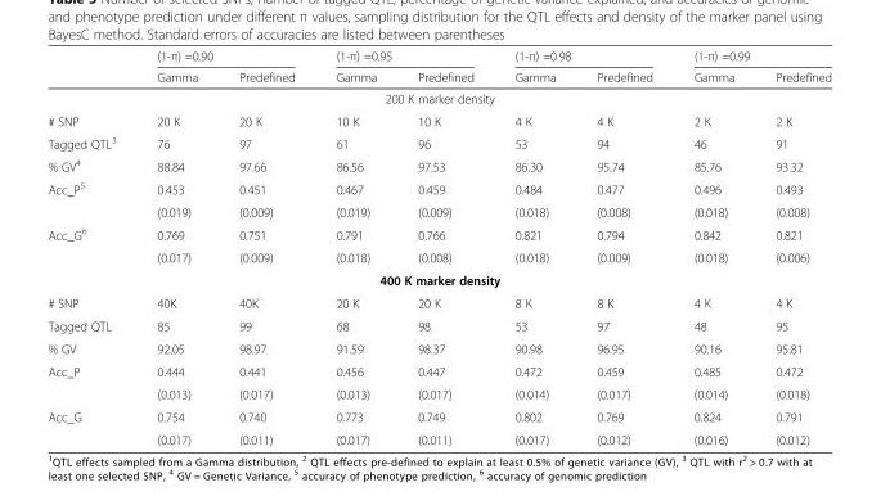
<table><thead><tr><td rowspan="2"></td><td colspan="2">(1-π) =0.90</td><td colspan="2">(1-π) =0.95</td><td colspan="2">(1-π) =0.98</td><td colspan="2">(1-π) =0.99</td></tr><tr><td>Gamma</td><td>Predefined</td><td>Gamma</td><td>Predefined</td><td>Gamma</td><td>Predefined</td><td>Gamma</td><td>Predefined</td></tr></thead><tbody><tr><td colspan="9">200 K marker density</td></tr><tr><td># SNP</td><td>20 K</td><td>20 K</td><td>10 K</td><td>10 K</td><td>4 K</td><td>4 K</td><td>2 K</td><td>2 K</td></tr><tr><td>Tagged QTL<sup>3</sup></td><td>76</td><td>97</td><td>61</td><td>96</td><td>53</td><td>94</td><td>46</td><td>91</td></tr><tr><td>% GV<sup>4</sup></td><td>88.84</td><td>97.66</td><td>86.56</td><td>97.53</td><td>86.30</td><td>95.74</td><td>85.76</td><td>93.32</td></tr><tr><td rowspan="2">Acc_P<sup>5</sup></td><td>0.453</td><td>0.451</td><td>0.467</td><td>0.459</td><td>0.484</td><td>0.477</td><td>0.496</td><td>0.493</td></tr><tr><td>(0.019)</td><td>(0.009)</td><td>(0.019)</td><td>(0.009)</td><td>(0.018)</td><td>(0.008)</td><td>(0.018)</td><td>(0.008)</td></tr><tr><td rowspan="2">Acc_G<sup>6</sup></td><td>0.769</td><td>0.751</td><td>0.791</td><td>0.766</td><td>0.821</td><td>0.794</td><td>0.842</td><td>0.821</td></tr><tr><td>(0.017)</td><td>(0.009)</td><td>(0.018)</td><td>(0.008)</td><td>(0.018)</td><td>(0.009)</td><td>(0.018)</td><td>(0.006)</td></tr><tr><td colspan="9">400 K marker density</td></tr><tr><td># SNP</td><td>40K</td><td>40K</td><td>20 K</td><td>20 K</td><td>8 K</td><td>8 K</td><td>4 K</td><td>4 K</td></tr><tr><td>Tagged QTL</td><td>85</td><td>99</td><td>68</td><td>98</td><td>53</td><td>97</td><td>48</td><td>95</td></tr><tr><td>% GV</td><td>92.05</td><td>98.97</td><td>91.59</td><td>98.37</td><td>90.98</td><td>96.95</td><td>90.16</td><td>95.81</td></tr><tr><td rowspan="2">Acc_P</td><td>0.444</td><td>0.441</td><td>0.456</td><td>0.447</td><td>0.472</td><td>0.459</td><td>0.485</td><td>0.472</td></tr><tr><td>(0.013)</td><td>(0.017)</td><td>(0.013)</td><td>(0.017)</td><td>(0.014)</td><td>(0.017)</td><td>(0.014)</td><td>(0.018)</td></tr><tr><td rowspan="2">Acc_G</td><td>0.754</td><td>0.740</td><td>0.773</td><td>0.749</td><td>0.802</td><td>0.769</td><td>0.824</td><td>0.791</td></tr><tr><td>(0.017)</td><td>(0.011)</td><td>(0.017)</td><td>(0.011)</td><td>(0.017)</td><td>(0.012)</td><td>(0.016)</td><td>(0.012)</td></tr></tbody></table>